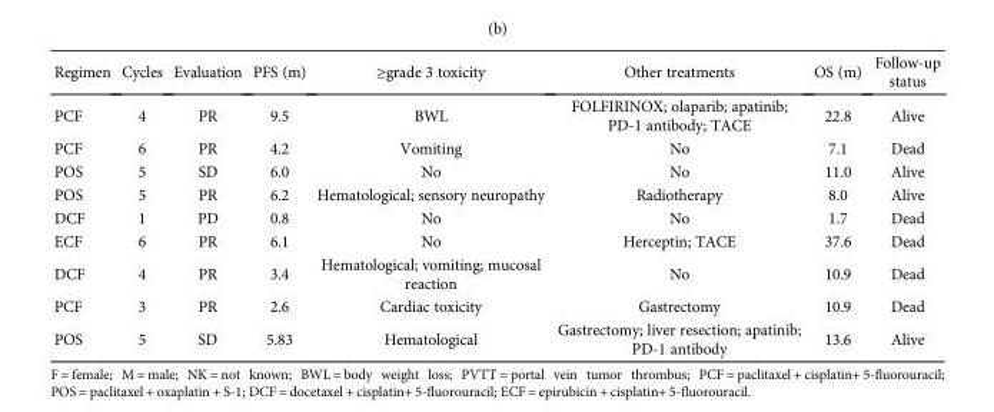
<table><thead><tr><td>Regimen</td><td>Cycles</td><td>Evaluation</td><td>PFS (m)</td><td>≥grade 3 toxicity</td><td>Other treatments</td><td>OS (m)</td><td>Follow-up status</td></tr></thead><tbody><tr><td>PCF</td><td>4</td><td>PR</td><td>9.5</td><td>BWL</td><td>FOLFIRINOX; olaparib; apatinib; PD-1 antibody; TACE</td><td>22.8</td><td>Alive</td></tr><tr><td>PCF</td><td>6</td><td>PR</td><td>4.2</td><td>Vomiting</td><td>No</td><td>7.1</td><td>Dead</td></tr><tr><td>POS</td><td>5</td><td>SD</td><td>6.0</td><td>No</td><td>No</td><td>11.0</td><td>Alive</td></tr><tr><td>POS</td><td>5</td><td>PR</td><td>6.2</td><td>Hematological; sensory neuropathy</td><td>Radiotherapy</td><td>8.0</td><td>Alive</td></tr><tr><td>DCF</td><td>1</td><td>PD</td><td>0.8</td><td>No</td><td>No</td><td>1.7</td><td>Dead</td></tr><tr><td>ECF</td><td>6</td><td>PR</td><td>6.1</td><td>No</td><td>Herceptin; TACE</td><td>37.6</td><td>Dead</td></tr><tr><td>DCF</td><td>4</td><td>PR</td><td>3.4</td><td>Hematological; vomiting; mucosal reaction</td><td>No</td><td>10.9</td><td>Dead</td></tr><tr><td>PCF</td><td>3</td><td>PR</td><td>2.6</td><td>Cardiac toxicity</td><td>Gastrectomy</td><td>10.9</td><td>Dead</td></tr><tr><td>POS</td><td>5</td><td>SD</td><td>5.83</td><td>Hematological</td><td>Gastrectomy; liver resection; apatinib; PD-1 antibody</td><td>13.6</td><td>Alive</td></tr></tbody></table>